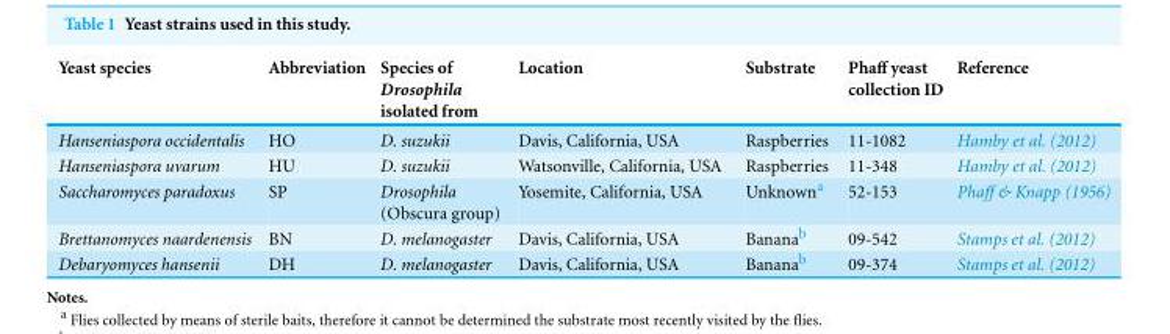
<table><thead><tr><td>Yeast species</td><td>Abbreviation</td><td>Species of Drosophila isolated from</td><td>Location</td><td>Substrate</td><td>Phaff yeast collection ID</td><td>Reference</td></tr></thead><tbody><tr><td>Hanseniaspora occidentalis</td><td>HO</td><td>D. suzukii</td><td>Davis, California, USA</td><td>Raspberries</td><td>11-1082</td><td>Hamby et al. (2012)</td></tr><tr><td>Hanseniaspora uvarum</td><td>HU</td><td>D. suzukii</td><td>Watsonville, California, USA</td><td>Raspberries</td><td>11-348</td><td>Hamby et al. (2012)</td></tr><tr><td>Saccharomyces paradoxus</td><td>SP</td><td>Drosophila (Obscura group)</td><td>Yosemite, California, USA</td><td>Unknown<sup>a</sup></td><td>52-153</td><td>Phaff &amp; Knapp (1956)</td></tr><tr><td>Brettanomyces naardenensis</td><td>BN</td><td>D. melanogaster</td><td>Davis, California, USA</td><td>Banana<sup>b</sup></td><td>09-542</td><td>Stamps et al. (2012)</td></tr><tr><td>Debaryomyces hansenii</td><td>DH</td><td>D. melanogaster</td><td>Davis, California, USA</td><td>Banana<sup>b</sup></td><td>09-374</td><td>Stamps et al. (2012)</td></tr></tbody></table>